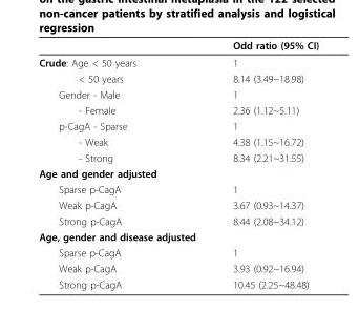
<table><thead><tr><td></td><td>Odd ratio (95% CI)</td></tr></thead><tbody><tr><td>Crude: Age &lt; 50 years</td><td>1</td></tr><tr><td>&lt; 50 years</td><td>8.14 (3.49~18.98)</td></tr><tr><td>Gender - Male</td><td>1</td></tr><tr><td>- Female</td><td>2.36 (1.12~5.11)</td></tr><tr><td>p-CagA - Sparse</td><td>1</td></tr><tr><td>- Weak</td><td>4.38 (1.15~16.72)</td></tr><tr><td>- Strong</td><td>8.34 (2.21~31.55)</td></tr><tr><td colspan="2">Age and gender adjusted</td></tr><tr><td>Sparse p-CagA</td><td>1</td></tr><tr><td>Weak p-CagA</td><td>3.67 (0.93~14.37)</td></tr><tr><td>Strong p-CagA</td><td>8.44 (2.08~34.12)</td></tr><tr><td colspan="2">Age, gender and disease adjusted</td></tr><tr><td>Sparse p-CagA</td><td>1</td></tr><tr><td>Weak p-CagA</td><td>3.93 (0.92~16.94)</td></tr><tr><td>Strong p-CagA</td><td>10.45 (2.25~48.48)</td></tr></tbody></table>